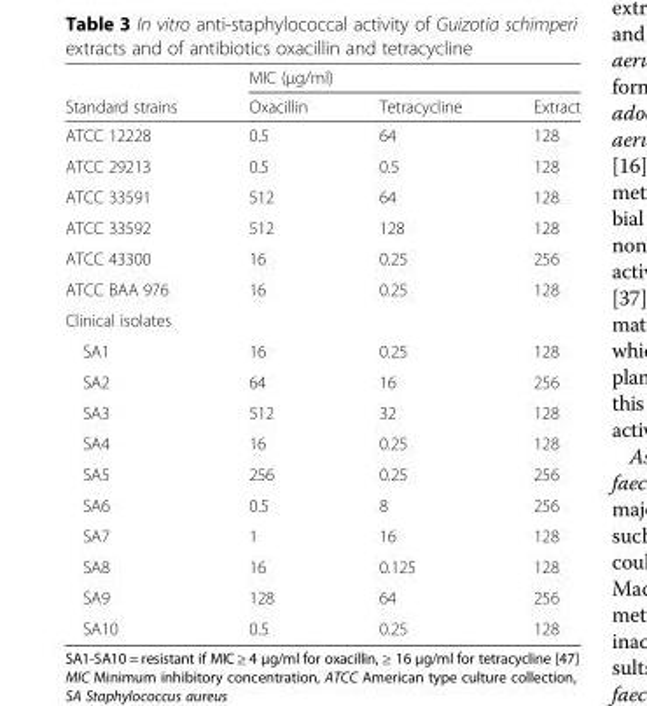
<table><thead><tr><td rowspan="2">Standard strains</td><td colspan="3">MIC (μg/ml)</td></tr><tr><td>Oxacillin</td><td>Tetracycline</td><td>Extract</td></tr></thead><tbody><tr><td>ATCC 12228</td><td>0.5</td><td>64</td><td>128</td></tr><tr><td>ATCC 29213</td><td>0.5</td><td>0.5</td><td>128</td></tr><tr><td>ATCC 33591</td><td>512</td><td>64</td><td>128</td></tr><tr><td>ATCC 33592</td><td>512</td><td>128</td><td>128</td></tr><tr><td>ATCC 43300</td><td>16</td><td>0.25</td><td>256</td></tr><tr><td>ATCC BAA 976</td><td>16</td><td>0.25</td><td>128</td></tr><tr><td colspan="4">Clinical isolates</td></tr><tr><td>SA1</td><td>16</td><td>0.25</td><td>128</td></tr><tr><td>SA2</td><td>64</td><td>16</td><td>256</td></tr><tr><td>SA3</td><td>512</td><td>32</td><td>128</td></tr><tr><td>SA4</td><td>16</td><td>0.25</td><td>128</td></tr><tr><td>SA5</td><td>256</td><td>0.25</td><td>256</td></tr><tr><td>SA6</td><td>0.5</td><td>8</td><td>256</td></tr><tr><td>SA7</td><td>1</td><td>16</td><td>128</td></tr><tr><td>SA8</td><td>16</td><td>0.125</td><td>128</td></tr><tr><td>SA9</td><td>128</td><td>64</td><td>256</td></tr><tr><td>SA10</td><td>0.5</td><td>0.25</td><td>128</td></tr></tbody></table>